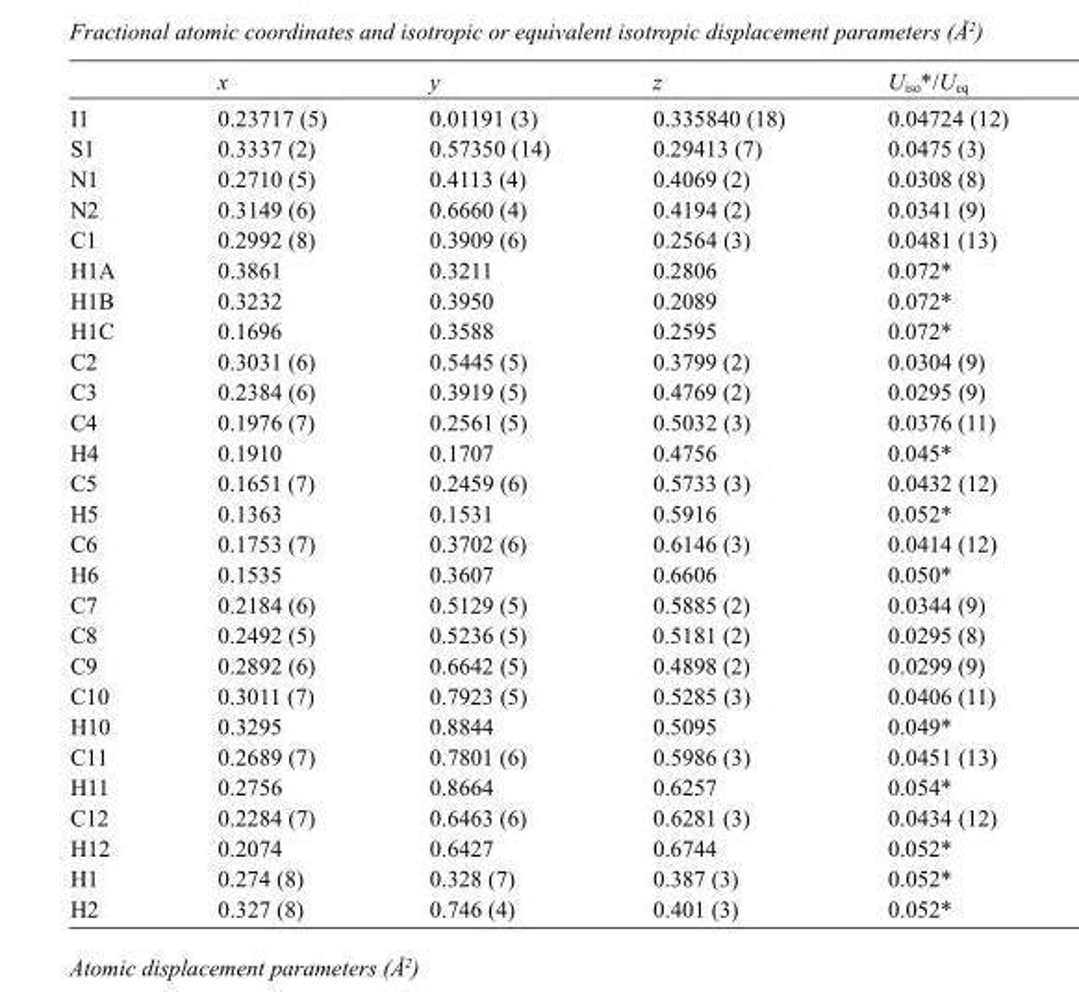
<table><thead><tr><td></td><td>x</td><td>y</td><td>z</td><td>U<sub>iso</sub>*/U<sub>eq</sub></td></tr></thead><tbody><tr><td>I1</td><td>0.23717 (5)</td><td>0.01191 (3)</td><td>0.335840 (18)</td><td>0.04724 (12)</td></tr><tr><td>S1</td><td>0.3337 (2)</td><td>0.57350 (14)</td><td>0.29413 (7)</td><td>0.0475 (3)</td></tr><tr><td>N1</td><td>0.2710 (5)</td><td>0.4113 (4)</td><td>0.4069 (2)</td><td>0.0308 (8)</td></tr><tr><td>N2</td><td>0.3149 (6)</td><td>0.6660 (4)</td><td>0.4194 (2)</td><td>0.0341 (9)</td></tr><tr><td>C1</td><td>0.2992 (8)</td><td>0.3909 (6)</td><td>0.2564 (3)</td><td>0.0481 (13)</td></tr><tr><td>H1A</td><td>0.3861</td><td>0.3211</td><td>0.2806</td><td>0.072*</td></tr><tr><td>H1B</td><td>0.3232</td><td>0.3950</td><td>0.2089</td><td>0.072*</td></tr><tr><td>H1C</td><td>0.1696</td><td>0.3588</td><td>0.2595</td><td>0.072*</td></tr><tr><td>C2</td><td>0.3031 (6)</td><td>0.5445 (5)</td><td>0.3799 (2)</td><td>0.0304 (9)</td></tr><tr><td>C3</td><td>0.2384 (6)</td><td>0.3919 (5)</td><td>0.4769 (2)</td><td>0.0295 (9)</td></tr><tr><td>C4</td><td>0.1976 (7)</td><td>0.2561 (5)</td><td>0.5032 (3)</td><td>0.0376 (11)</td></tr><tr><td>H4</td><td>0.1910</td><td>0.1707</td><td>0.4756</td><td>0.045*</td></tr><tr><td>C5</td><td>0.1651 (7)</td><td>0.2459 (6)</td><td>0.5733 (3)</td><td>0.0432 (12)</td></tr><tr><td>H5</td><td>0.1363</td><td>0.1531</td><td>0.5916</td><td>0.052*</td></tr><tr><td>C6</td><td>0.1753 (7)</td><td>0.3702 (6)</td><td>0.6146 (3)</td><td>0.0414 (12)</td></tr><tr><td>H6</td><td>0.1535</td><td>0.3607</td><td>0.6606</td><td>0.050*</td></tr><tr><td>C7</td><td>0.2184 (6)</td><td>0.5129 (5)</td><td>0.5885 (2)</td><td>0.0344 (9)</td></tr><tr><td>C8</td><td>0.2492 (5)</td><td>0.5236 (5)</td><td>0.5181 (2)</td><td>0.0295 (8)</td></tr><tr><td>C9</td><td>0.2892 (6)</td><td>0.6642 (5)</td><td>0.4898 (2)</td><td>0.0299 (9)</td></tr><tr><td>C10</td><td>0.3011 (7)</td><td>0.7923 (5)</td><td>0.5285 (3)</td><td>0.0406 (11)</td></tr><tr><td>H10</td><td>0.3295</td><td>0.8844</td><td>0.5095</td><td>0.049*</td></tr><tr><td>C11</td><td>0.2689 (7)</td><td>0.7801 (6)</td><td>0.5986 (3)</td><td>0.0451 (13)</td></tr><tr><td>H11</td><td>0.2756</td><td>0.8664</td><td>0.6257</td><td>0.054*</td></tr><tr><td>C12</td><td>0.2284 (7)</td><td>0.6463 (6)</td><td>0.6281 (3)</td><td>0.0434 (12)</td></tr><tr><td>H12</td><td>0.2074</td><td>0.6427</td><td>0.6744</td><td>0.052*</td></tr><tr><td>H1</td><td>0.274 (8)</td><td>0.328 (7)</td><td>0.387 (3)</td><td>0.052*</td></tr><tr><td>H2</td><td>0.327 (8)</td><td>0.746 (4)</td><td>0.401 (3)</td><td>0.052*</td></tr></tbody></table>